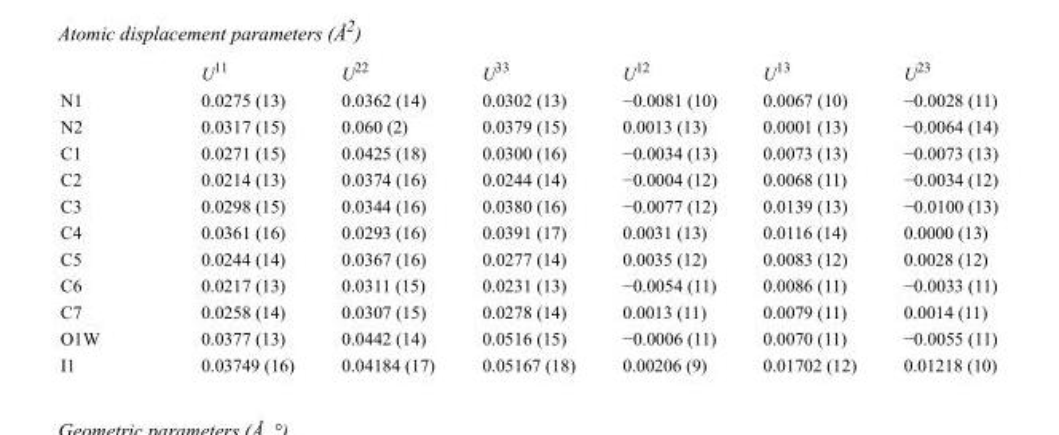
<table><thead><tr><td></td><td>U<sup>11</sup></td><td>U<sup>22</sup></td><td>U<sup>33</sup></td><td>U<sup>12</sup></td><td>U<sup>13</sup></td><td>U<sup>23</sup></td></tr></thead><tbody><tr><td>N1</td><td>0.0275 (13)</td><td>0.0362 (14)</td><td>0.0302 (13)</td><td>−0.0081 (10)</td><td>0.0067 (10)</td><td>−0.0028 (11)</td></tr><tr><td>N2</td><td>0.0317 (15)</td><td>0.060 (2)</td><td>0.0379 (15)</td><td>0.0013 (13)</td><td>0.0001 (13)</td><td>−0.0064 (14)</td></tr><tr><td>C1</td><td>0.0271 (15)</td><td>0.0425 (18)</td><td>0.0300 (16)</td><td>−0.0034 (13)</td><td>0.0073 (13)</td><td>−0.0073 (13)</td></tr><tr><td>C2</td><td>0.0214 (13)</td><td>0.0374 (16)</td><td>0.0244 (14)</td><td>−0.0004 (12)</td><td>0.0068 (11)</td><td>−0.0034 (12)</td></tr><tr><td>C3</td><td>0.0298 (15)</td><td>0.0344 (16)</td><td>0.0380 (16)</td><td>−0.0077 (12)</td><td>0.0139 (13)</td><td>−0.0100 (13)</td></tr><tr><td>C4</td><td>0.0361 (16)</td><td>0.0293 (16)</td><td>0.0391 (17)</td><td>0.0031 (13)</td><td>0.0116 (14)</td><td>0.0000 (13)</td></tr><tr><td>C5</td><td>0.0244 (14)</td><td>0.0367 (16)</td><td>0.0277 (14)</td><td>0.0035 (12)</td><td>0.0083 (12)</td><td>0.0028 (12)</td></tr><tr><td>C6</td><td>0.0217 (13)</td><td>0.0311 (15)</td><td>0.0231 (13)</td><td>−0.0054 (11)</td><td>0.0086 (11)</td><td>−0.0033 (11)</td></tr><tr><td>C7</td><td>0.0258 (14)</td><td>0.0307 (15)</td><td>0.0278 (14)</td><td>0.0013 (11)</td><td>0.0079 (11)</td><td>0.0014 (11)</td></tr><tr><td>O1W</td><td>0.0377 (13)</td><td>0.0442 (14)</td><td>0.0516 (15)</td><td>−0.0006 (11)</td><td>0.0070 (11)</td><td>−0.0055 (11)</td></tr><tr><td>I1</td><td>0.03749 (16)</td><td>0.04184 (17)</td><td>0.05167 (18)</td><td>0.00206 (9)</td><td>0.01702 (12)</td><td>0.01218 (10)</td></tr></tbody></table>